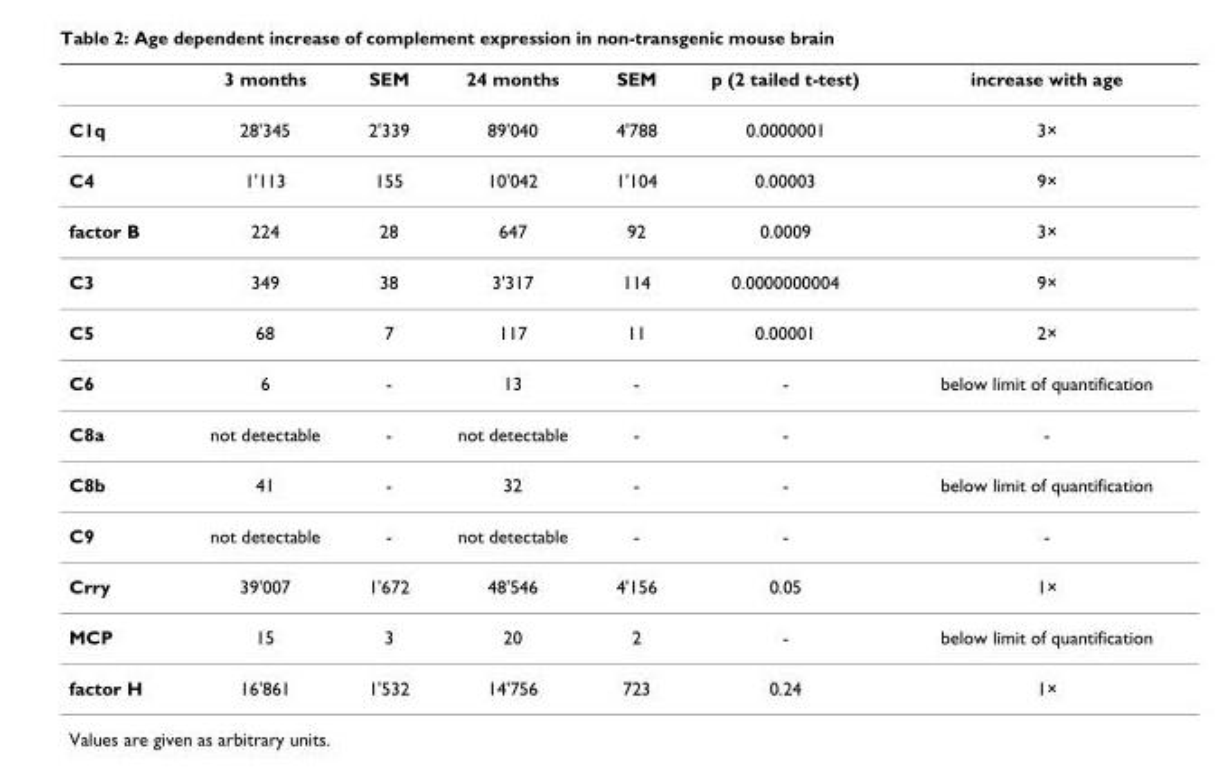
<table><thead><tr><td></td><td>3 months</td><td>SEM</td><td>24 months</td><td>SEM</td><td>p (2 tailed t-test)</td><td>increase with age</td></tr></thead><tbody><tr><td>C1q</td><td>28&#x27;345</td><td>2&#x27;339</td><td>89&#x27;040</td><td>4&#x27;788</td><td>0.0000001</td><td>3×</td></tr><tr><td>C4</td><td>1&#x27;113</td><td>155</td><td>10&#x27;042</td><td>1&#x27;104</td><td>0.00003</td><td>9×</td></tr><tr><td>factor B</td><td>224</td><td>28</td><td>647</td><td>92</td><td>0.0009</td><td>3×</td></tr><tr><td>C3</td><td>349</td><td>38</td><td>3&#x27;317</td><td>114</td><td>0.0000000004</td><td>9×</td></tr><tr><td>C5</td><td>68</td><td>7</td><td>117</td><td>11</td><td>0.00001</td><td>2×</td></tr><tr><td>C6</td><td>6</td><td>-</td><td>13</td><td>-</td><td>-</td><td>below limit of quantification</td></tr><tr><td>C8a</td><td>not detectable</td><td>-</td><td>not detectable</td><td>-</td><td>-</td><td>-</td></tr><tr><td>C8b</td><td>41</td><td>-</td><td>32</td><td>-</td><td>-</td><td>below limit of quantification</td></tr><tr><td>C9</td><td>not detectable</td><td>-</td><td>not detectable</td><td>-</td><td>-</td><td>-</td></tr><tr><td>Crry</td><td>39&#x27;007</td><td>1&#x27;672</td><td>48&#x27;546</td><td>4&#x27;156</td><td>0.05</td><td>1×</td></tr><tr><td>MCP</td><td>15</td><td>3</td><td>20</td><td>2</td><td>-</td><td>below limit of quantification</td></tr><tr><td>factor H</td><td>16&#x27;861</td><td>1&#x27;532</td><td>14&#x27;756</td><td>723</td><td>0.24</td><td>1×</td></tr></tbody></table>